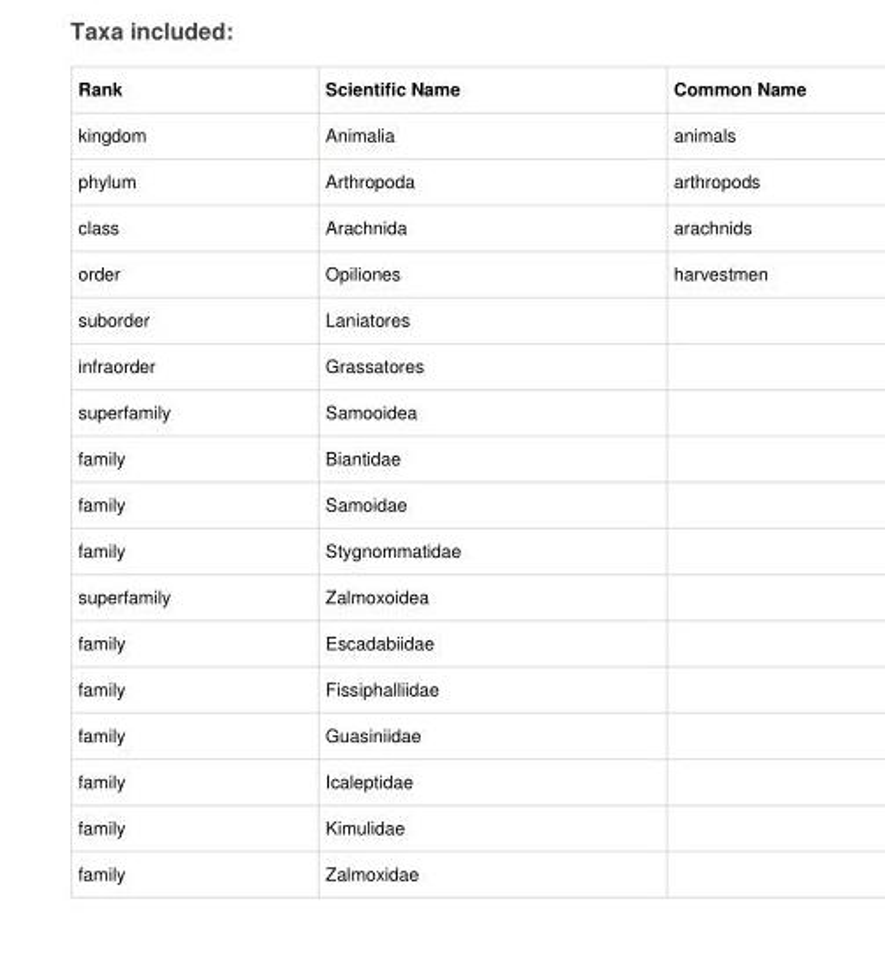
<table><thead><tr><td>Rank</td><td>Scientific Name</td><td>Common Name</td></tr></thead><tbody><tr><td>kingdom</td><td>Animalia</td><td>animals</td></tr><tr><td>phylum</td><td>Arthropoda</td><td>arthropods</td></tr><tr><td>class</td><td>Arachnida</td><td>arachnids</td></tr><tr><td>order</td><td>Opiliones</td><td>harvestmen</td></tr><tr><td>suborder</td><td>Laniatores</td><td></td></tr><tr><td>infraorder</td><td>Grassatores</td><td></td></tr><tr><td>superfamily</td><td>Samooidea</td><td></td></tr><tr><td>family</td><td>Biantidae</td><td></td></tr><tr><td>family</td><td>Samoidae</td><td></td></tr><tr><td>family</td><td>Stygnommatidae</td><td></td></tr><tr><td>superfamily</td><td>Zalmoxoidea</td><td></td></tr><tr><td>family</td><td>Escadabiidae</td><td></td></tr><tr><td>family</td><td>Fissiphalliidae</td><td></td></tr><tr><td>family</td><td>Guasiniidae</td><td></td></tr><tr><td>family</td><td>Icaleptidae</td><td></td></tr><tr><td>family</td><td>Kimulidae</td><td></td></tr><tr><td>family</td><td>Zalmoxidae</td><td></td></tr></tbody></table>